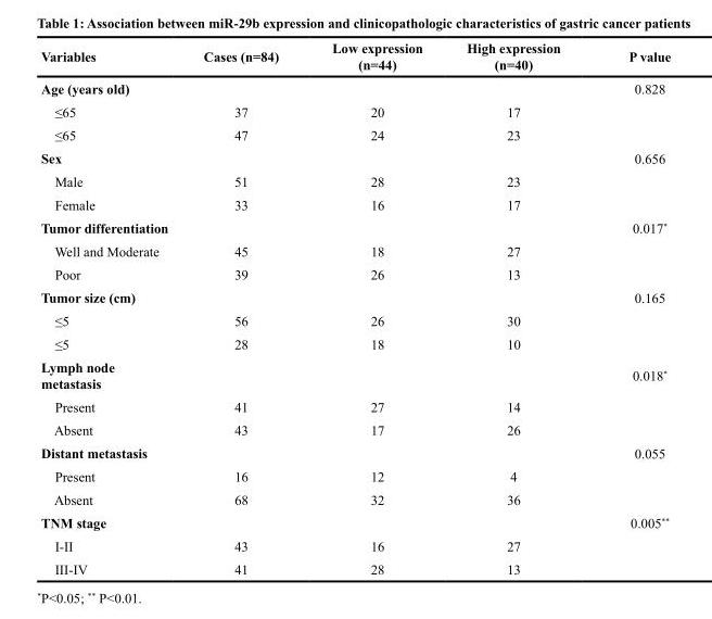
<table><thead><tr><td>Variables</td><td>Cases (n=84)</td><td>Low expression (n=44)</td><td>High expression (n=40)</td><td>P value</td></tr></thead><tbody><tr><td>Age (years old)</td><td></td><td></td><td></td><td>0.828</td></tr><tr><td>≤65</td><td>37</td><td>20</td><td>17</td><td></td></tr><tr><td>≤65</td><td>47</td><td>24</td><td>23</td><td></td></tr><tr><td>Sex</td><td></td><td></td><td></td><td>0.656</td></tr><tr><td>Male</td><td>51</td><td>28</td><td>23</td><td></td></tr><tr><td>Female</td><td>33</td><td>16</td><td>17</td><td></td></tr><tr><td>Tumor differentiation</td><td></td><td></td><td></td><td>0.017*</td></tr><tr><td>Well and Moderate</td><td>45</td><td>18</td><td>27</td><td></td></tr><tr><td>Poor</td><td>39</td><td>26</td><td>13</td><td></td></tr><tr><td>Tumor size (cm)</td><td></td><td></td><td></td><td>0.165</td></tr><tr><td>≤5</td><td>56</td><td>26</td><td>30</td><td></td></tr><tr><td>≤5</td><td>28</td><td>18</td><td>10</td><td></td></tr><tr><td>Lymph node metastasis</td><td></td><td></td><td></td><td>0.018*</td></tr><tr><td>Present</td><td>41</td><td>27</td><td>14</td><td></td></tr><tr><td>Absent</td><td>43</td><td>17</td><td>26</td><td></td></tr><tr><td>Distant metastasis</td><td></td><td></td><td></td><td>0.055</td></tr><tr><td>Present</td><td>16</td><td>12</td><td>4</td><td></td></tr><tr><td>Absent</td><td>68</td><td>32</td><td>36</td><td></td></tr><tr><td>TNM stage</td><td></td><td></td><td></td><td>0.005**</td></tr><tr><td>I-II</td><td>43</td><td>16</td><td>27</td><td></td></tr><tr><td>III-IV</td><td>41</td><td>28</td><td>13</td><td></td></tr></tbody></table>